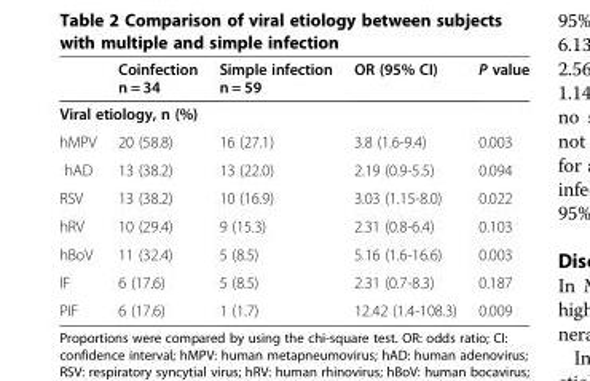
<table><thead><tr><td></td><td>Coinfection n = 34</td><td>Simple infection n = 59</td><td>OR (95% CI)</td><td>P value</td></tr></thead><tbody><tr><td colspan="5">Viral etiology, n (%)</td></tr><tr><td>hMPV</td><td>20 (58.8)</td><td>16 (27.1)</td><td>3.8 (1.6-9.4)</td><td>0.003</td></tr><tr><td>hAD</td><td>13 (38.2)</td><td>13 (22.0)</td><td>2.19 (0.9-5.5)</td><td>0.094</td></tr><tr><td>RSV</td><td>13 (38.2)</td><td>10 (16.9)</td><td>3.03 (1.15-8.0)</td><td>0.022</td></tr><tr><td>hRV</td><td>10 (29.4)</td><td>9 (15.3)</td><td>2.31 (0.8-6.4)</td><td>0.103</td></tr><tr><td>hBoV</td><td>11 (32.4)</td><td>5 (8.5)</td><td>5.16 (1.6-16.6)</td><td>0.003</td></tr><tr><td>IF</td><td>6 (17.6)</td><td>5 (8.5)</td><td>2.31 (0.7-8.3)</td><td>0.187</td></tr><tr><td>PIF</td><td>6 (17.6)</td><td>1 (1.7)</td><td>12.42 (1.4-108.3)</td><td>0.009</td></tr></tbody></table>